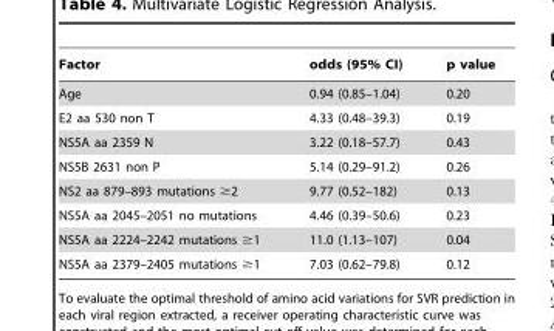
<table><thead><tr><td>Factor</td><td>odds (95% CI)</td><td>p value</td></tr></thead><tbody><tr><td>Age</td><td>0.94 (0.85–1.04)</td><td>0.20</td></tr><tr><td>E2 aa 530 non T</td><td>4.33 (0.48–39.3)</td><td>0.19</td></tr><tr><td>NS5A aa 2359 N</td><td>3.22 (0.18–57.7)</td><td>0.43</td></tr><tr><td>NS5B 2631 non P</td><td>5.14 (0.29–91.2)</td><td>0.26</td></tr><tr><td>NS2 aa 879–893 mutations ≥2</td><td>9.77 (0.52–182)</td><td>0.13</td></tr><tr><td>NS5A aa 2045–2051 no mutations</td><td>4.46 (0.39–50.6)</td><td>0.23</td></tr><tr><td>NS5A aa 2224–2242 mutations ≥1</td><td>11.0 (1.13–107)</td><td>0.04</td></tr><tr><td>NS5A aa 2379–2405 mutations ≥1</td><td>7.03 (0.62–79.8)</td><td>0.12</td></tr></tbody></table>